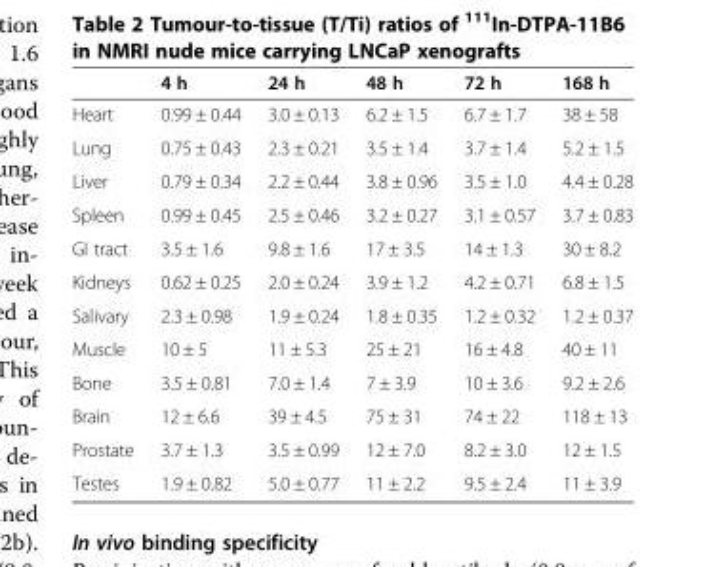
<table><thead><tr><td></td><td>4 h</td><td>24 h</td><td>48 h</td><td>72 h</td><td>168 h</td></tr></thead><tbody><tr><td>Heart</td><td>0.99 ± 0.44</td><td>3.0 ± 0.13</td><td>6.2 ± 1.5</td><td>6.7 ± 1.7</td><td>38 ± 58</td></tr><tr><td>Lung</td><td>0.75 ± 0.43</td><td>2.3 ± 0.21</td><td>3.5 ± 1.4</td><td>3.7 ± 1.4</td><td>5.2 ± 1.5</td></tr><tr><td>Liver</td><td>0.79 ± 0.34</td><td>2.2 ± 0.44</td><td>3.8 ± 0.96</td><td>3.5 ± 1.0</td><td>4.4 ± 0.28</td></tr><tr><td>Spleen</td><td>0.99 ± 0.45</td><td>2.5 ± 0.46</td><td>3.2 ± 0.27</td><td>3.1 ± 0.57</td><td>3.7 ± 0.83</td></tr><tr><td>GI tract</td><td>3.5 ± 1.6</td><td>9.8 ± 1.6</td><td>17 ± 3.5</td><td>14 ± 1.3</td><td>30 ± 8.2</td></tr><tr><td>Kidneys</td><td>0.62 ± 0.25</td><td>2.0 ± 0.24</td><td>3.9 ± 1.2</td><td>4.2 ± 0.71</td><td>6.8 ± 1.5</td></tr><tr><td>Salivary</td><td>2.3 ± 0.98</td><td>1.9 ± 0.24</td><td>1.8 ± 0.35</td><td>1.2 ± 0.32</td><td>1.2 ± 0.37</td></tr><tr><td>Muscle</td><td>10 ± 5</td><td>11 ± 5.3</td><td>25 ± 21</td><td>16 ± 4.8</td><td>40 ± 11</td></tr><tr><td>Bone</td><td>3.5 ± 0.81</td><td>7.0 ± 1.4</td><td>7 ± 3.9</td><td>10 ± 3.6</td><td>9.2 ± 2.6</td></tr><tr><td>Brain</td><td>12 ± 6.6</td><td>39 ± 4.5</td><td>75 ± 31</td><td>74 ± 22</td><td>118 ± 13</td></tr><tr><td>Prostate</td><td>3.7 ± 1.3</td><td>3.5 ± 0.99</td><td>12 ± 7.0</td><td>8.2 ± 3.0</td><td>12 ± 1.5</td></tr><tr><td>Testes</td><td>1.9 ± 0.82</td><td>5.0 ± 0.77</td><td>11 ± 2.2</td><td>9.5 ± 2.4</td><td>11 ± 3.9</td></tr></tbody></table>